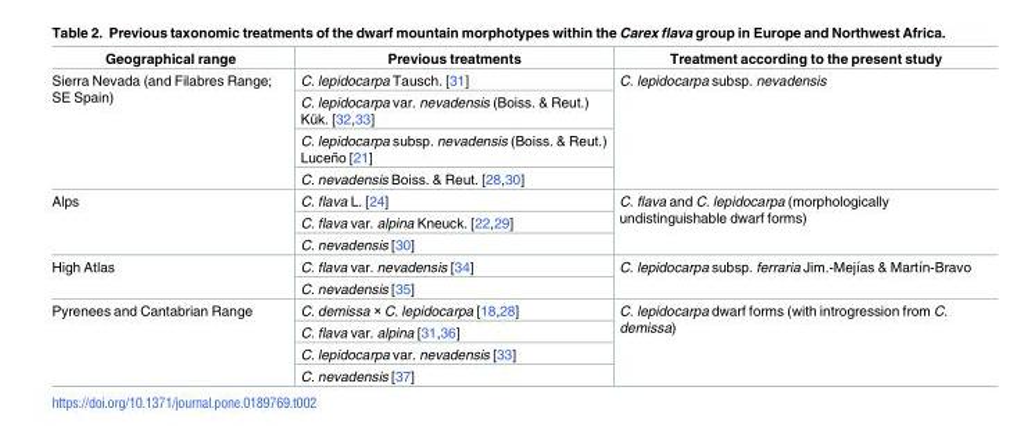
<table><thead><tr><td>Geographical range</td><td>Previous treatments</td><td>Treatment according to the present study</td></tr></thead><tbody><tr><td rowspan="4">Sierra Nevada (and Filabres Range; SE Spain)</td><td>C. lepidocarpa Tausch. [31]</td><td rowspan="4">C. lepidocarpa subsp. nevadensis</td></tr><tr><td>C. lepidocarpa var. nevadensis (Boiss. &amp; Reut.) Ku¨k. [32,33]</td></tr><tr><td>C. lepidocarpa subsp. nevadensis (Boiss. &amp; Reut.) Luceño [21]</td></tr><tr><td>C. nevadensis Boiss. &amp; Reut. [28,30]</td></tr><tr><td rowspan="3">Alps</td><td>C. flava L. [24]</td><td rowspan="3">C. flava and C. lepidocarpa (morphologically undistinguishable dwarf forms)</td></tr><tr><td>C. flava var. alpina Kneuck. [22,29]</td></tr><tr><td>C. nevadensis [30]</td></tr><tr><td rowspan="2">High Atlas</td><td>C. flava var. nevadensis [34]</td><td rowspan="2">C. lepidocarpa subsp. ferraria Jim.-Mejı´as &amp; Martı´n-Bravo</td></tr><tr><td>C. nevadensis [35]</td></tr><tr><td rowspan="4">Pyrenees and Cantabrian Range</td><td>C. demissa × C. lepidocarpa [18,28]</td><td rowspan="4">C. lepidocarpa dwarf forms (with introgression from C. demissa)</td></tr><tr><td>C. flava var. alpina [31,36]</td></tr><tr><td>C. lepidocarpa var. nevadensis [33]</td></tr><tr><td>C. nevadensis [37]</td></tr></tbody></table>